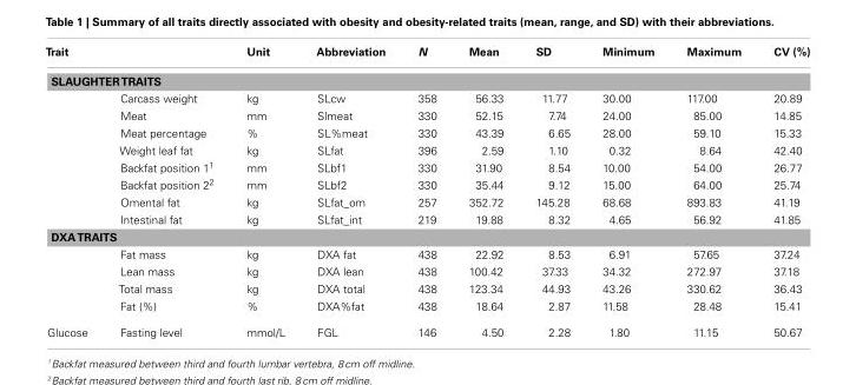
<table><thead><tr><td>Trait</td><td></td><td>Unit</td><td>Abbreviation</td><td>N</td><td>Mean</td><td>SD</td><td>Minimum</td><td>Maximum</td><td>CV (%)</td></tr></thead><tbody><tr><td colspan="10">SLAUGHTERTRAITS</td></tr><tr><td></td><td>Carcass weight</td><td>kg</td><td>SLcw</td><td>358</td><td>56.33</td><td>11.77</td><td>30.00</td><td>117.00</td><td>20.89</td></tr><tr><td></td><td>Meat</td><td>mm</td><td>Slmeat</td><td>330</td><td>52.15</td><td>7.74</td><td>24.00</td><td>85.00</td><td>14.85</td></tr><tr><td></td><td>Meat percentage</td><td>%</td><td>SL%meat</td><td>330</td><td>43.39</td><td>6.65</td><td>28.00</td><td>59.10</td><td>15.33</td></tr><tr><td></td><td>Weight leaf fat</td><td>kg</td><td>SLfat</td><td>396</td><td>2.59</td><td>1.10</td><td>0.32</td><td>8.64</td><td>42.40</td></tr><tr><td></td><td>Backfat position 1<sup>1</sup></td><td>mm</td><td>SLbf1</td><td>330</td><td>31.90</td><td>8.54</td><td>10.00</td><td>54.00</td><td>26.77</td></tr><tr><td></td><td>Backfat position 2<sup>2</sup></td><td>mm</td><td>SLbf2</td><td>330</td><td>35.44</td><td>9.12</td><td>15.00</td><td>64.00</td><td>25.74</td></tr><tr><td></td><td>Omental fat</td><td>kg</td><td>SLfat_om</td><td>257</td><td>352.72</td><td>145.28</td><td>68.68</td><td>893.83</td><td>41.19</td></tr><tr><td></td><td>Intestinal fat</td><td>kg</td><td>SLfat_int</td><td>219</td><td>19.88</td><td>8.32</td><td>4.65</td><td>56.92</td><td>41.85</td></tr><tr><td colspan="10">DXATRAITS</td></tr><tr><td></td><td>Fat mass</td><td>kg</td><td>DXA fat</td><td>438</td><td>22.92</td><td>8.53</td><td>6.91</td><td>57.65</td><td>37.24</td></tr><tr><td></td><td>Lean mass</td><td>kg</td><td>DXA lean</td><td>438</td><td>100.42</td><td>37.33</td><td>34.32</td><td>272.97</td><td>37.18</td></tr><tr><td></td><td>Total mass</td><td>kg</td><td>DXA total</td><td>438</td><td>123.34</td><td>44.93</td><td>43.26</td><td>330.62</td><td>36.43</td></tr><tr><td></td><td>Fat (%)</td><td>%</td><td>DXA%fat</td><td>438</td><td>18.64</td><td>2.87</td><td>11.58</td><td>28.48</td><td>15.41</td></tr><tr><td>Glucose</td><td>Fasting level</td><td>mmol/L</td><td>FGL</td><td>146</td><td>4.50</td><td>2.28</td><td>1.80</td><td>11.15</td><td>50.67</td></tr></tbody></table>